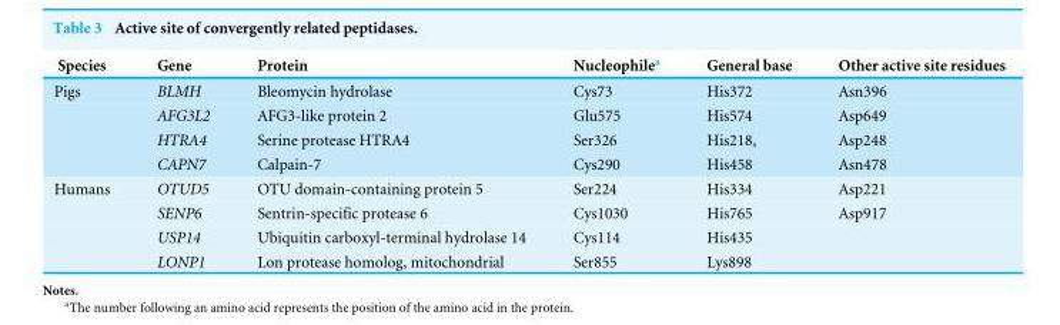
<table><thead><tr><td>Species</td><td>Gene</td><td>Protein</td><td>Nucleophile<sup>a</sup></td><td>General base</td><td>Other active site residues</td></tr></thead><tbody><tr><td rowspan="4">Pigs</td><td>BLMH</td><td>Bleomycin hydrolase</td><td>Cys73</td><td>His372</td><td>Asn396</td></tr><tr><td>AFG3L2</td><td>AFG3-like protein 2</td><td>Glu575</td><td>His574</td><td>Asp649</td></tr><tr><td>HTRA4</td><td>Serine protease HTRA4</td><td>Ser326</td><td>His218,</td><td>Asp248</td></tr><tr><td>CAPN7</td><td>Calpain-7</td><td>Cys290</td><td>His458</td><td>Asn478</td></tr><tr><td rowspan="4">Humans</td><td>OTUD5</td><td>OTU domain-containing protein 5</td><td>Ser224</td><td>His334</td><td>Asp221</td></tr><tr><td>SENP6</td><td>Sentrin-specific protease 6</td><td>Cys1030</td><td>His765</td><td>Asp917</td></tr><tr><td>USP14</td><td>Ubiquitin carboxyl-terminal hydrolase 14</td><td>Cys114</td><td>His435</td><td></td></tr><tr><td>LONP1</td><td>Lon protease homolog, mitochondrial</td><td>Ser855</td><td>Lys898</td><td></td></tr></tbody></table>